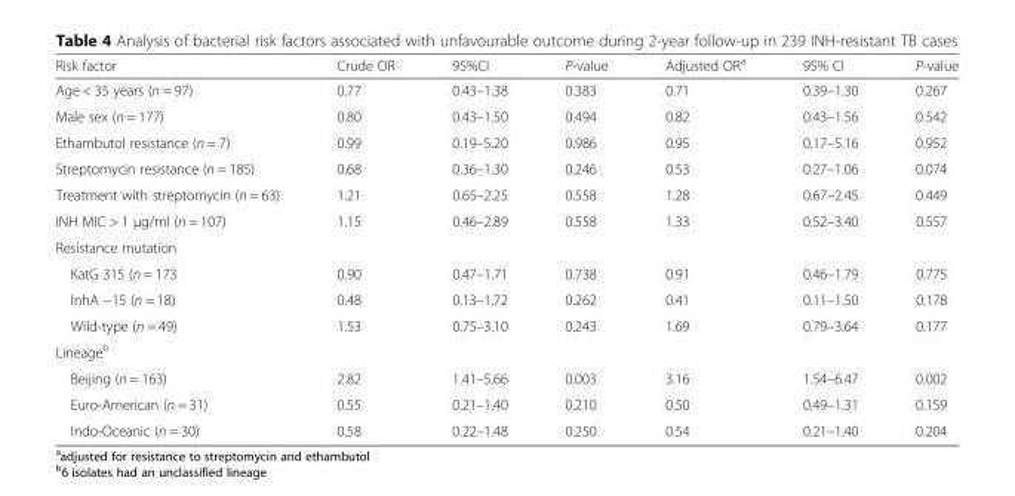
<table><thead><tr><td>Risk factor</td><td>Crude OR</td><td>95%CI</td><td>P-value</td><td>Adjusted OR<sup>a</sup></td><td>95% CI</td><td>P-value</td></tr></thead><tbody><tr><td>Age &lt; 35 years (n = 97)</td><td>0.77</td><td>0.43–1.38</td><td>0.383</td><td>0.71</td><td>0.39–1.30</td><td>0.267</td></tr><tr><td>Male sex (n = 177)</td><td>0.80</td><td>0.43–1.50</td><td>0.494</td><td>0.82</td><td>0.43–1.56</td><td>0.542</td></tr><tr><td>Ethambutol resistance (n = 7)</td><td>0.99</td><td>0.19–5.20</td><td>0.986</td><td>0.95</td><td>0.17–5.16</td><td>0.952</td></tr><tr><td>Streptomycin resistance (n = 185)</td><td>0.68</td><td>0.36–1.30</td><td>0.246</td><td>0.53</td><td>0.27–1.06</td><td>0.074</td></tr><tr><td>Treatment with streptomycin (n = 63)</td><td>1.21</td><td>0.65–2.25</td><td>0.558</td><td>1.28</td><td>0.67–2.45</td><td>0.449</td></tr><tr><td>INH MIC &gt; 1 μg/ml (n = 107)</td><td>1.15</td><td>0.46–2.89</td><td>0.558</td><td>1.33</td><td>0.52–3.40</td><td>0.557</td></tr><tr><td colspan="7">Resistance mutation</td></tr><tr><td>KatG 315 (n = 173</td><td>0.90</td><td>0.47–1.71</td><td>0.738</td><td>0.91</td><td>0.46–1.79</td><td>0.775</td></tr><tr><td>InhA −15 (n = 18)</td><td>0.48</td><td>0.13–1.72</td><td>0.262</td><td>0.41</td><td>0.11–1.50</td><td>0.178</td></tr><tr><td>Wild-type (n = 49)</td><td>1.53</td><td>0.75–3.10</td><td>0.243</td><td>1.69</td><td>0.79–3.64</td><td>0.177</td></tr><tr><td colspan="7">Lineage<sup>b</sup></td></tr><tr><td>Beijing (n = 163)</td><td>2.82</td><td>1.41–5.66</td><td>0.003</td><td>3.16</td><td>1.54–6.47</td><td>0.002</td></tr><tr><td>Euro-American (n = 31)</td><td>0.55</td><td>0.21–1.40</td><td>0.210</td><td>0.50</td><td>0.49–1.31</td><td>0.159</td></tr><tr><td>Indo-Oceanic (n = 30)</td><td>0.58</td><td>0.22–1.48</td><td>0.250</td><td>0.54</td><td>0.21–1.40</td><td>0.204</td></tr></tbody></table>